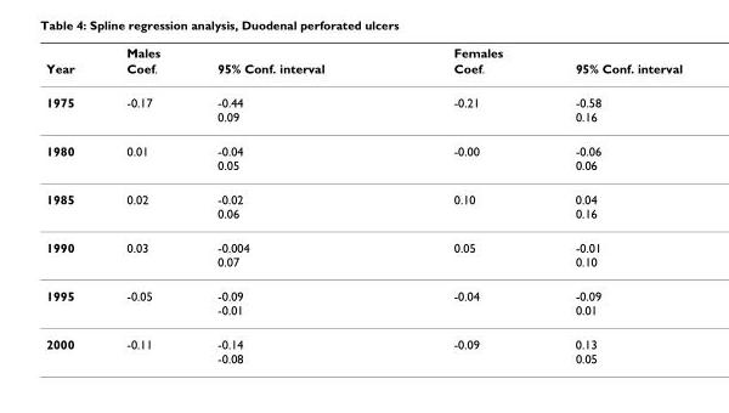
<table><thead><tr><td rowspan="2">Year</td><td rowspan="2">Males Coef.</td><td rowspan="2">95% Conf. interval</td><td rowspan="2">Females Coef.</td><td rowspan="2">95% Conf. interval</td></tr><tr></tr></thead><tbody><tr><td>1975</td><td>-0.17</td><td>-0.44 0.09</td><td>-0.21</td><td>-0.58 0.16</td></tr><tr><td>1980</td><td>0.01</td><td>-0.04 0.05</td><td>-0.00</td><td>-0.06 0.06</td></tr><tr><td>1985</td><td>0.02</td><td>-0.02 0.06</td><td>0.10</td><td>0.04 0.16</td></tr><tr><td>1990</td><td>0.03</td><td>-0.004 0.07</td><td>0.05</td><td>-0.01 0.10</td></tr><tr><td>1995</td><td>-0.05</td><td>-0.09 -0.01</td><td>-0.04</td><td>-0.09 0.01</td></tr><tr><td>2000</td><td>-0.11</td><td>-0.14 -0.08</td><td>-0.09</td><td>0.13 0.05</td></tr></tbody></table>